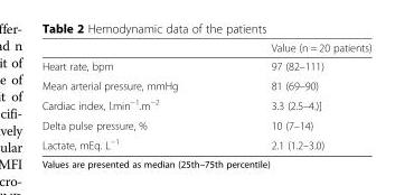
<table><thead><tr><td></td><td>Value (n = 20 patients)</td></tr></thead><tbody><tr><td>Heart rate, bpm</td><td>97 (82–111)</td></tr><tr><td>Mean arterial pressure, mmHg</td><td>81 (69–90)</td></tr><tr><td>Cardiac index, l.min<sup>−1</sup>.m<sup>−2</sup></td><td>3.3 (2.5–4.)]</td></tr><tr><td>Delta pulse pressure, %</td><td>10 (7–14)</td></tr><tr><td>Lactate, mEq. L<sup>−1</sup></td><td>2.1 (1.2–3.0)</td></tr></tbody></table>